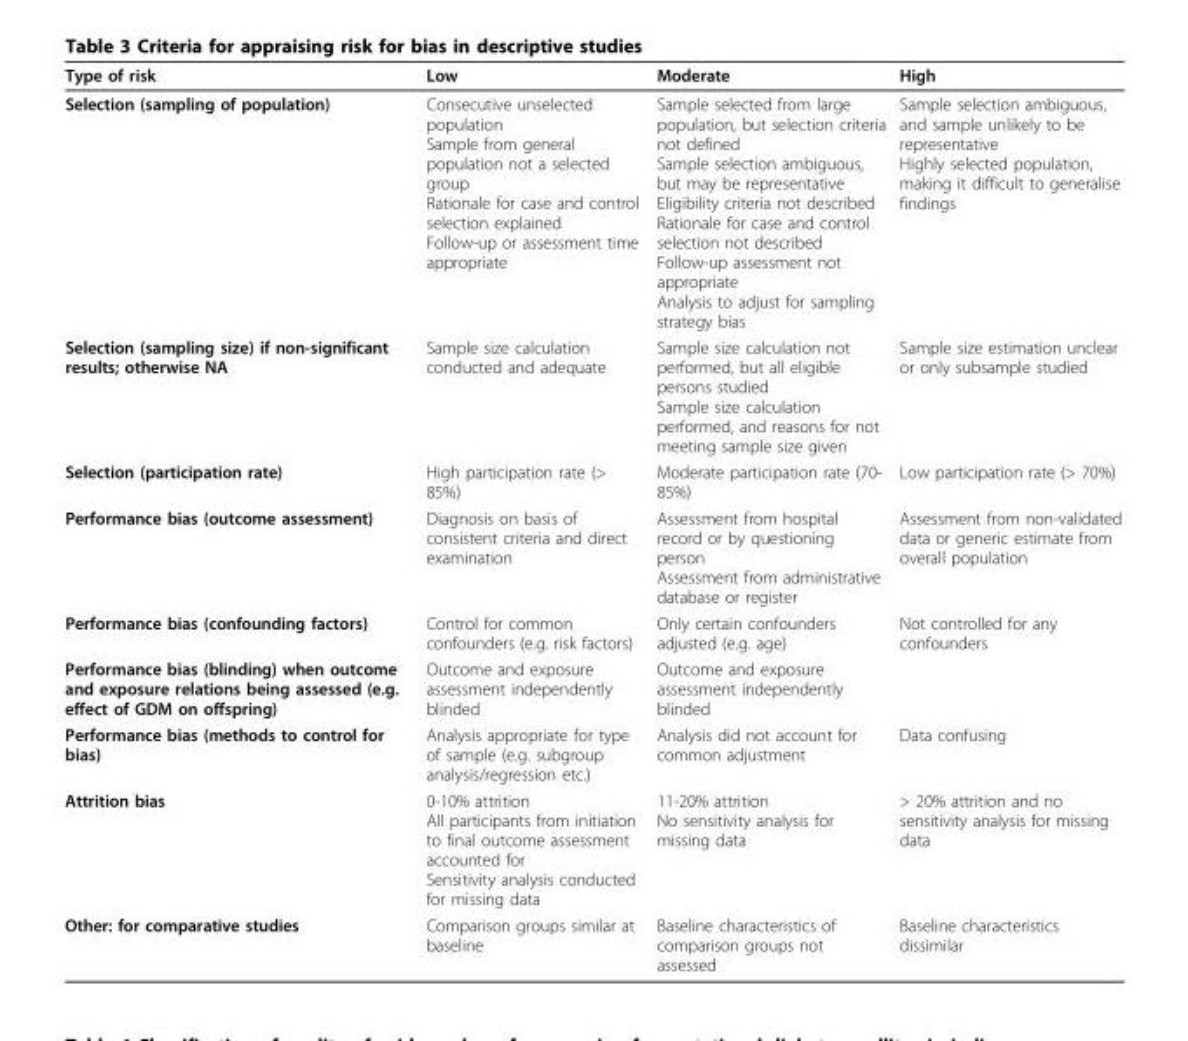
<table><thead><tr><td>Type of risk</td><td>Low</td><td>Moderate</td><td>High</td></tr></thead><tbody><tr><td>Selection (sampling of population)</td><td>Consecutive unselected population Sample from general population not a selected group Rationale for case and control selection explained Follow-up or assessment time appropriate</td><td>Sample selected from large population, but selection criteria not defined Sample selection ambiguous, but may be representative Eligibility criteria not described Rationale for case and control selection not described Follow-up assessment not appropriate Analysis to adjust for sampling strategy bias</td><td>Sample selection ambiguous, and sample unlikely to be representative Highly selected population, making it difficult to generalise findings</td></tr><tr><td>Selection (sampling size) if non-significant results; otherwise NA</td><td>Sample size calculation conducted and adequate</td><td>Sample size calculation not performed, but all eligible persons studied Sample size calculation performed, and reasons for not meeting sample size given</td><td>Sample size estimation unclear or only subsample studied</td></tr><tr><td>Selection (participation rate)</td><td>High participation rate (&gt; 85%)</td><td>Moderate participation rate (70- 85%)</td><td>Low participation rate (&gt; 70%)</td></tr><tr><td>Performance bias (outcome assessment)</td><td>Diagnosis on basis of consistent criteria and direct examination</td><td>Assessment from hospital record or by questioning person Assessment from administrative database or register</td><td>Assessment from non-validated data or generic estimate from overall population</td></tr><tr><td>Performance bias (confounding factors)</td><td>Control for common confounders (e.g. risk factors)</td><td>Only certain confounders adjusted (e.g. age)</td><td>Not controlled for any confounders</td></tr><tr><td>Performance bias (blinding) when outcome and exposure relations being assessed (e.g. effect of GDM on offspring)</td><td>Outcome and exposure assessment independently blinded</td><td>Outcome and exposure assessment independently blinded</td><td></td></tr><tr><td>Performance bias (methods to control for bias)</td><td>Analysis appropriate for type of sample (e.g. subgroup analysis/regression etc.)</td><td>Analysis did not account for common adjustment</td><td>Data confusing</td></tr><tr><td>Attrition bias</td><td>0-10% attrition All participants from initiation to final outcome assessment accounted for Sensitivity analysis conducted for missing data</td><td>11-20% attrition No sensitivity analysis for missing data</td><td>&gt; 20% attrition and no sensitivity analysis for missing data</td></tr><tr><td>Other: for comparative studies</td><td>Comparison groups similar at baseline</td><td>Baseline characteristics of comparison groups not assessed</td><td>Baseline characteristics dissimilar</td></tr></tbody></table>